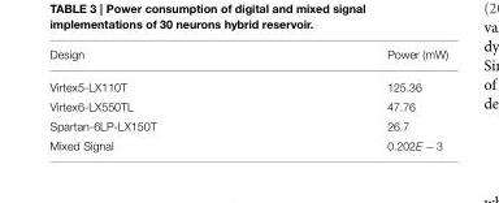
<table><tbody><tr><td>Design</td><td>Power (mW)</td></tr><tr><td>Virtex5-LX110T</td><td>125.36</td></tr><tr><td>Virtex6-LX550TL</td><td>47.76</td></tr><tr><td>Spartan-6LP-LX150T</td><td>26.7</td></tr><tr><td>Mixed Signal</td><td>0.202E − 3</td></tr></tbody></table>